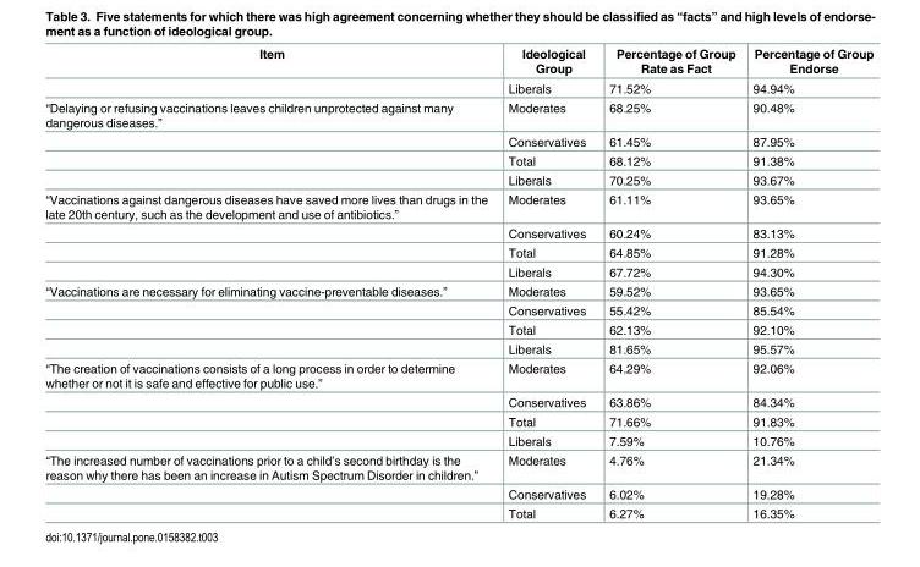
<table><thead><tr><td>Item</td><td>Ideological Group</td><td>Percentage of Group Rate as Fact</td><td>Percentage of Group Endorse</td></tr></thead><tbody><tr><td></td><td>Liberals</td><td>71.52%</td><td>94.94%</td></tr><tr><td rowspan="4">“Delaying or refusing vaccinations leaves children unprotected against many dangerous diseases.”</td><td>Moderates</td><td>68.25%</td><td>90.48%</td></tr><tr><td>Conservatives</td><td>61.45%</td><td>87.95%</td></tr><tr><td>Total</td><td>68.12%</td><td>91.38%</td></tr><tr><td>Liberals</td><td>70.25%</td><td>93.67%</td></tr><tr><td rowspan="4">“Vaccinations against dangerous diseases have saved more lives than drugs in the late 20th century, such as the development and use of antibiotics.”</td><td>Moderates</td><td>61.11%</td><td>93.65%</td></tr><tr><td>Conservatives</td><td>60.24%</td><td>83.13%</td></tr><tr><td>Total</td><td>64.85%</td><td>91.28%</td></tr><tr><td>Liberals</td><td>67.72%</td><td>94.30%</td></tr><tr><td rowspan="4">“Vaccinations are necessary for eliminating vaccine-preventable diseases.”</td><td>Moderates</td><td>59.52%</td><td>93.65%</td></tr><tr><td>Conservatives</td><td>55.42%</td><td>85.54%</td></tr><tr><td>Total</td><td>62.13%</td><td>92.10%</td></tr><tr><td>Liberals</td><td>81.65%</td><td>95.57%</td></tr><tr><td rowspan="4">“The creation of vaccinations consists of a long process in order to determine whether or not it is safe and effective for public use.”</td><td>Moderates</td><td>64.29%</td><td>92.06%</td></tr><tr><td>Conservatives</td><td>63.86%</td><td>84.34%</td></tr><tr><td>Total</td><td>71.66%</td><td>91.83%</td></tr><tr><td>Liberals</td><td>7.59%</td><td>10.76%</td></tr><tr><td rowspan="3">“The increased number of vaccinations prior to a child’s second birthday is the reason why there has been an increase in Autism Spectrum Disorder in children.”</td><td>Moderates</td><td>4.76%</td><td>21.34%</td></tr><tr><td>Conservatives</td><td>6.02%</td><td>19.28%</td></tr><tr><td>Total</td><td>6.27%</td><td>16.35%</td></tr></tbody></table>